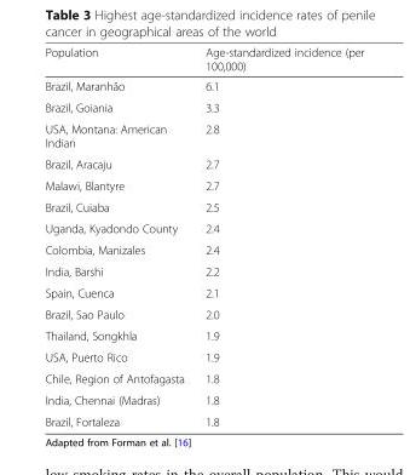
<table><thead><tr><td>Population</td><td>Age-standardized incidence (per 100,000)</td></tr></thead><tbody><tr><td>Brazil, Maranhão</td><td>6.1</td></tr><tr><td>Brazil, Goiania</td><td>3.3</td></tr><tr><td>USA, Montana: American Indian</td><td>2.8</td></tr><tr><td>Brazil, Aracaju</td><td>2.7</td></tr><tr><td>Malawi, Blantyre</td><td>2.7</td></tr><tr><td>Brazil, Cuiaba</td><td>2.5</td></tr><tr><td>Uganda, Kyadondo County</td><td>2.4</td></tr><tr><td>Colombia, Manizales</td><td>2.4</td></tr><tr><td>India, Barshi</td><td>2.2</td></tr><tr><td>Spain, Cuenca</td><td>2.1</td></tr><tr><td>Brazil, Sao Paulo</td><td>2.0</td></tr><tr><td>Thailand, Songkhla</td><td>1.9</td></tr><tr><td>USA, Puerto Rico</td><td>1.9</td></tr><tr><td>Chile, Region of Antofagasta</td><td>1.8</td></tr><tr><td>India, Chennai (Madras)</td><td>1.8</td></tr><tr><td>Brazil, Fortaleza</td><td>1.8</td></tr></tbody></table>